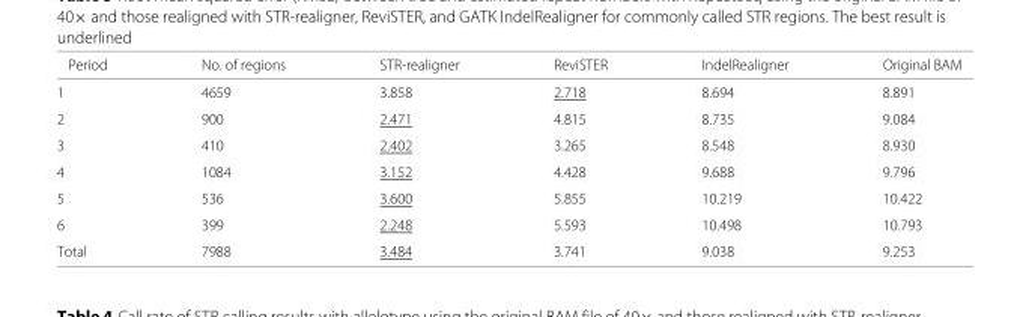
<table><thead><tr><td>Period</td><td>No. of regions</td><td>STR-realigner</td><td>ReviSTER</td><td>IndelRealigner</td><td>Original BAM</td></tr></thead><tbody><tr><td>1</td><td>4659</td><td>3.858</td><td>2.718</td><td>8.694</td><td>8.891</td></tr><tr><td>2</td><td>900</td><td>2.471</td><td>4.815</td><td>8.735</td><td>9.084</td></tr><tr><td>3</td><td>410</td><td>2.402</td><td>3.265</td><td>8.548</td><td>8.930</td></tr><tr><td>4</td><td>1084</td><td>3.152</td><td>4.428</td><td>9.688</td><td>9.796</td></tr><tr><td>5</td><td>536</td><td>3.600</td><td>5.855</td><td>10.219</td><td>10.422</td></tr><tr><td>6</td><td>399</td><td>2.248</td><td>5.593</td><td>10.498</td><td>10.793</td></tr><tr><td>Total</td><td>7988</td><td>3.484</td><td>3.741</td><td>9.038</td><td>9.253</td></tr></tbody></table>